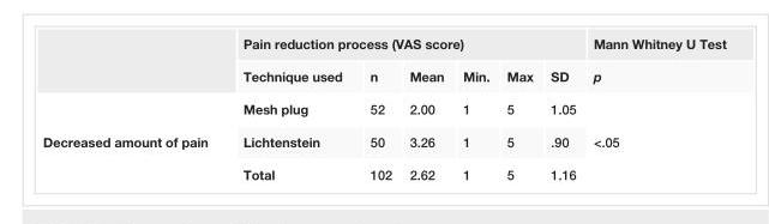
<table><thead><tr><td rowspan="2"></td><td colspan="6">Pain reduction process (VAS score)</td><td rowspan="2">Mann Whitney U Test p</td></tr><tr><td>Technique used</td><td>n</td><td>Mean</td><td>Min.</td><td>Max</td><td>SD</td></tr></thead><tbody><tr><td rowspan="3">Decreased amount of pain</td><td>Mesh plug</td><td>52</td><td>2.00</td><td>1</td><td>5</td><td>1.05</td><td rowspan="3">&lt;.05</td></tr><tr><td>Lichtenstein</td><td>50</td><td>3.26</td><td>1</td><td>5</td><td>.90</td></tr><tr><td>Total</td><td>102</td><td>2.62</td><td>1</td><td>5</td><td>1.16</td></tr></tbody></table>